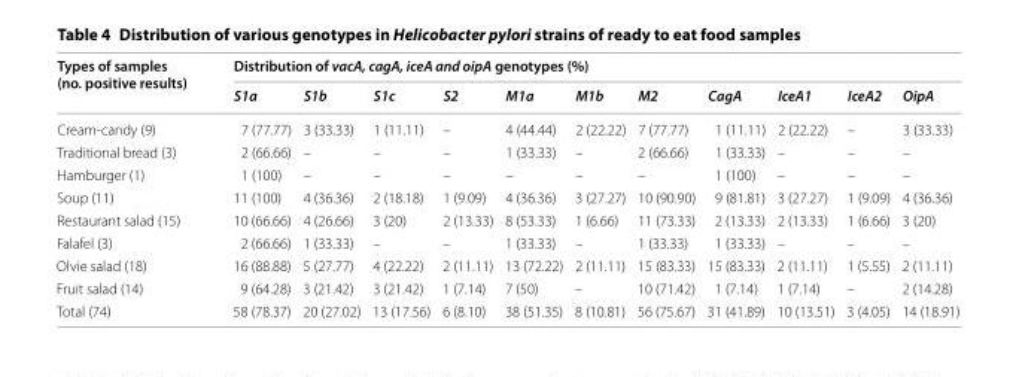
<table><thead><tr><td rowspan="2">Types of samples (no. positive results)</td><td colspan="11">Distribution of vacA, cagA, iceA and oipA genotypes (%)</td></tr><tr><td>S1a</td><td>S1b</td><td>S1c</td><td>S2</td><td>M1a</td><td>M1b</td><td>M2</td><td>CagA</td><td>IceA1</td><td>IceA2</td><td>OipA</td></tr></thead><tbody><tr><td>Cream-candy (9)</td><td>7 (77.77)</td><td>3 (33.33)</td><td>1 (11.11)</td><td>–</td><td>4 (44.44)</td><td>2 (22.22)</td><td>7 (77.77)</td><td>1 (11.11)</td><td>2 (22.22)</td><td>–</td><td>3 (33.33)</td></tr><tr><td>Traditional bread (3)</td><td>2 (66.66)</td><td>–</td><td>–</td><td>–</td><td>1 (33.33)</td><td>–</td><td>2 (66.66)</td><td>1 (33.33)</td><td>–</td><td>–</td><td>–</td></tr><tr><td>Hamburger (1)</td><td>1 (100)</td><td>–</td><td>–</td><td>–</td><td>–</td><td>–</td><td>–</td><td>1 (100)</td><td>–</td><td>–</td><td>–</td></tr><tr><td>Soup (11)</td><td>11 (100)</td><td>4 (36.36)</td><td>2 (18.18)</td><td>1 (9.09)</td><td>4 (36.36)</td><td>3 (27.27)</td><td>10 (90.90)</td><td>9 (81.81)</td><td>3 (27.27)</td><td>1 (9.09)</td><td>4 (36.36)</td></tr><tr><td>Restaurant salad (15)</td><td>10 (66.66)</td><td>4 (26.66)</td><td>3 (20)</td><td>2 (13.33)</td><td>8 (53.33)</td><td>1 (6.66)</td><td>11 (73.33)</td><td>2 (13.33)</td><td>2 (13.33)</td><td>1 (6.66)</td><td>3 (20)</td></tr><tr><td>Falafel (3)</td><td>2 (66.66)</td><td>1 (33.33)</td><td>–</td><td>–</td><td>1 (33.33)</td><td>–</td><td>1 (33.33)</td><td>1 (33.33)</td><td>–</td><td>–</td><td>–</td></tr><tr><td>Olvie salad (18)</td><td>16 (88.88)</td><td>5 (27.77)</td><td>4 (22.22)</td><td>2 (11.11)</td><td>13 (72.22)</td><td>2 (11.11)</td><td>15 (83.33)</td><td>15 (83.33)</td><td>2 (11.11)</td><td>1 (5.55)</td><td>2 (11.11)</td></tr><tr><td>Fruit salad (14)</td><td>9 (64.28)</td><td>3 (21.42)</td><td>3 (21.42)</td><td>1 (7.14)</td><td>7 (50)</td><td>–</td><td>10 (71.42)</td><td>1 (7.14)</td><td>1 (7.14)</td><td>–</td><td>2 (14.28)</td></tr><tr><td>Total (74)</td><td>58 (78.37)</td><td>20 (27.02)</td><td>13 (17.56)</td><td>6 (8.10)</td><td>38 (51.35)</td><td>8 (10.81)</td><td>56 (75.67)</td><td>31 (41.89)</td><td>10 (13.51)</td><td>3 (4.05)</td><td>14 (18.91)</td></tr></tbody></table>